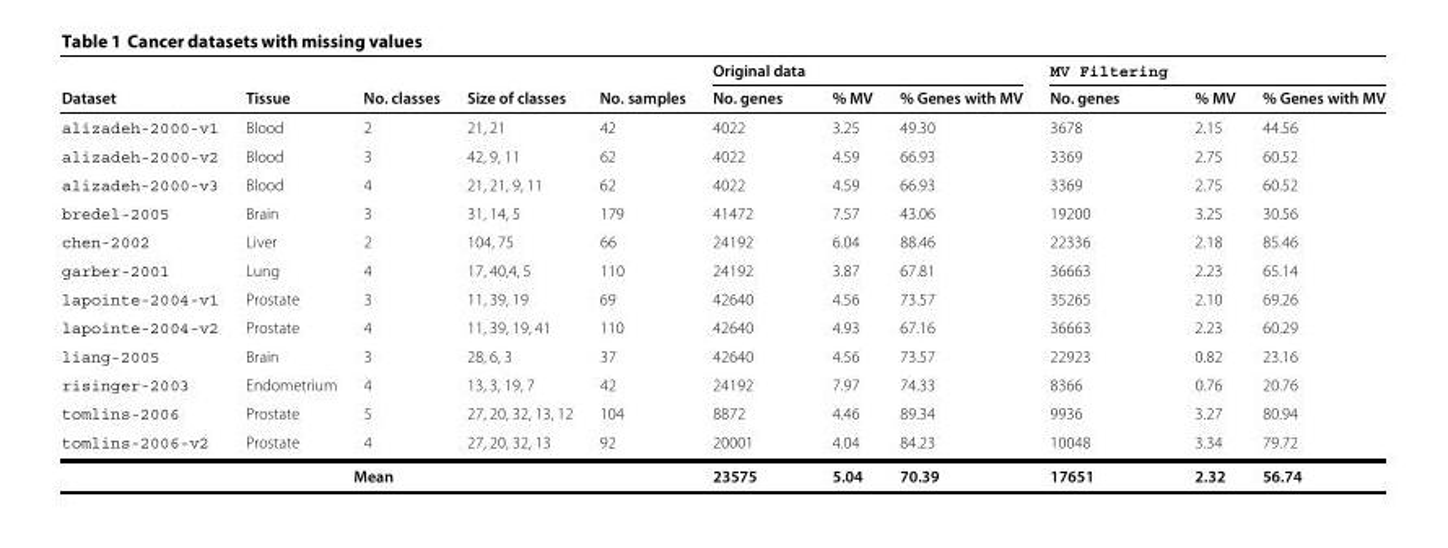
<table><thead><tr><td rowspan="2">Dataset</td><td rowspan="2">Tissue</td><td rowspan="2">No. classes</td><td rowspan="2">Size of classes</td><td rowspan="2">No. samples</td><td rowspan="2">Original data No. genes</td><td rowspan="2">% MV</td><td rowspan="2">% Genes with MV</td><td colspan="3">MV Filtering</td></tr><tr><td>No. genes</td><td>% MV</td><td>% Genes with MV</td></tr></thead><tbody><tr><td>alizadeh-2000-v1</td><td>Blood</td><td>2</td><td>21, 21</td><td>42</td><td>4022</td><td>3.25</td><td>49.30</td><td>3678</td><td>2.15</td><td>44.56</td></tr><tr><td>alizadeh-2000-v2</td><td>Blood</td><td>3</td><td>42, 9, 11</td><td>62</td><td>4022</td><td>4.59</td><td>66.93</td><td>3369</td><td>2.75</td><td>60.52</td></tr><tr><td>alizadeh-2000-v3</td><td>Blood</td><td>4</td><td>21, 21, 9, 11</td><td>62</td><td>4022</td><td>4.59</td><td>66.93</td><td>3369</td><td>2.75</td><td>60.52</td></tr><tr><td>bredel-2005</td><td>Brain</td><td>3</td><td>31, 14, 5</td><td>179</td><td>41472</td><td>7.57</td><td>43.06</td><td>19200</td><td>3.25</td><td>30.56</td></tr><tr><td>chen-2002</td><td>Liver</td><td>2</td><td>104, 75</td><td>66</td><td>24192</td><td>6.04</td><td>88.46</td><td>22336</td><td>2.18</td><td>85.46</td></tr><tr><td>garber-2001</td><td>Lung</td><td>4</td><td>17, 40,4, 5</td><td>110</td><td>24192</td><td>3.87</td><td>67.81</td><td>36663</td><td>2.23</td><td>65.14</td></tr><tr><td>lapointe-2004-v1</td><td>Prostate</td><td>3</td><td>11, 39, 19</td><td>69</td><td>42640</td><td>4.56</td><td>73.57</td><td>35265</td><td>2.10</td><td>69.26</td></tr><tr><td>lapointe-2004-v2</td><td>Prostate</td><td>4</td><td>11, 39, 19, 41</td><td>110</td><td>42640</td><td>4.93</td><td>67.16</td><td>36663</td><td>2.23</td><td>60.29</td></tr><tr><td>liang-2005</td><td>Brain</td><td>3</td><td>28, 6, 3</td><td>37</td><td>42640</td><td>4.56</td><td>73.57</td><td>22923</td><td>0.82</td><td>23.16</td></tr><tr><td>risinger-2003</td><td>Endometrium</td><td>4</td><td>13, 3, 19, 7</td><td>42</td><td>24192</td><td>7.97</td><td>74.33</td><td>8366</td><td>0.76</td><td>20.76</td></tr><tr><td>tomlins-2006</td><td>Prostate</td><td>5</td><td>27, 20, 32, 13, 12</td><td>104</td><td>8872</td><td>4.46</td><td>89.34</td><td>9936</td><td>3.27</td><td>80.94</td></tr><tr><td>tomlins-2006-v2</td><td>Prostate</td><td>4</td><td>27, 20, 32, 13</td><td>92</td><td>20001</td><td>4.04</td><td>84.23</td><td>10048</td><td>3.34</td><td>79.72</td></tr><tr><td colspan="5">Mean</td><td>23575</td><td>5.04</td><td>70.39</td><td>17651</td><td>2.32</td><td>56.74</td></tr></tbody></table>